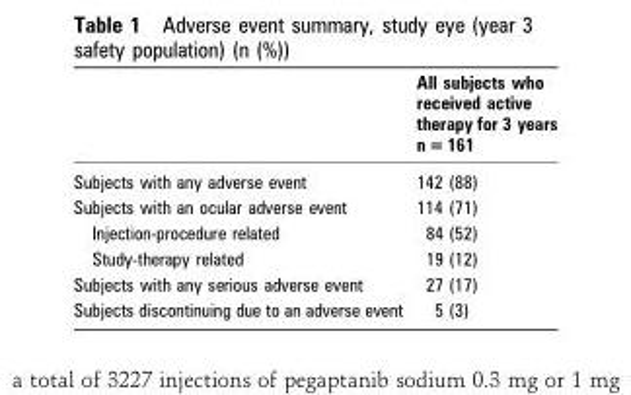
<table><thead><tr><td></td><td>All subjects who received active therapy for 3 years n = 161</td></tr></thead><tbody><tr><td>Subjects with any adverse event</td><td>142 (88)</td></tr><tr><td>Subjects with an ocular adverse event</td><td>114 (71)</td></tr><tr><td>Injection-procedure related</td><td>84 (52)</td></tr><tr><td>Study-therapy related</td><td>19 (12)</td></tr><tr><td>Subjects with any serious adverse event</td><td>27 (17)</td></tr><tr><td>Subjects discontinuing due to an adverse event</td><td>5 (3)</td></tr></tbody></table>